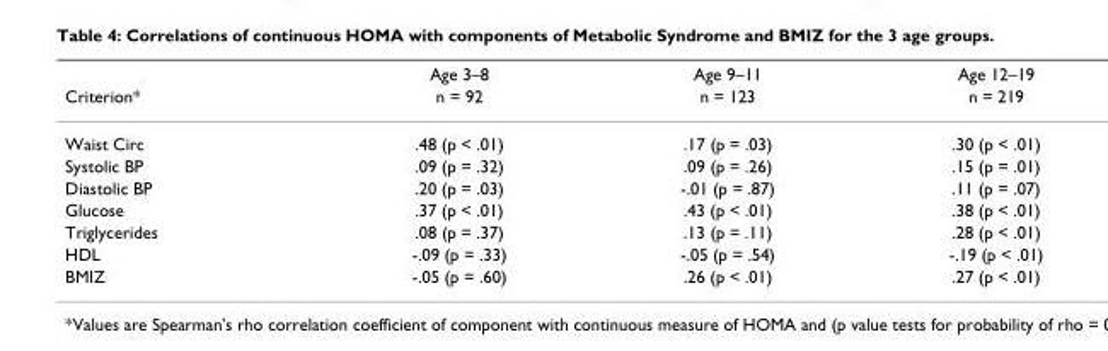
<table><thead><tr><td rowspan="2">Criterion*</td><td rowspan="2">Age 3–8 n = 92</td><td rowspan="2">Age 9–11 n = 123</td><td rowspan="2">Age 12–19 n = 219</td></tr><tr></tr></thead><tbody><tr><td>Waist Circ</td><td>.48 (p &lt; .01)</td><td>.17 (p = .03)</td><td>.30 (p &lt; .01)</td></tr><tr><td>Systolic BP</td><td>.09 (p = .32)</td><td>.09 (p = .26)</td><td>.15 (p = .01)</td></tr><tr><td>Diastolic BP</td><td>.20 (p = .03)</td><td>-.01 (p = .87)</td><td>.11 (p = .07)</td></tr><tr><td>Glucose</td><td>.37 (p &lt; .01)</td><td>.43 (p &lt; .01)</td><td>.38 (p &lt; .01)</td></tr><tr><td>Triglycerides</td><td>.08 (p = .37)</td><td>.13 (p = .11)</td><td>.28 (p &lt; .01)</td></tr><tr><td>HDL</td><td>-.09 (p = .33)</td><td>-.05 (p = .54)</td><td>-.19 (p &lt; .01)</td></tr><tr><td>BMIZ</td><td>-.05 (p = .60)</td><td>.26 (p &lt; .01)</td><td>.27 (p &lt; .01)</td></tr></tbody></table>